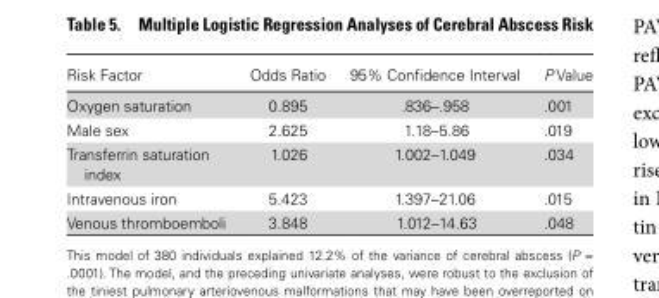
<table><thead><tr><td>Risk Factor</td><td>Odds Ratio</td><td>95% Confidence Interval</td><td>P Value</td></tr></thead><tbody><tr><td>Oxygen saturation</td><td>0.895</td><td>.836–.958</td><td>.001</td></tr><tr><td>Male sex</td><td>2.625</td><td>1.18–5.86</td><td>.019</td></tr><tr><td>Transferrin saturation index</td><td>1.026</td><td>1.002–1.049</td><td>.034</td></tr><tr><td>Intravenous iron</td><td>5.423</td><td>1.397–21.06</td><td>.015</td></tr><tr><td>Venous thromboemboli</td><td>3.848</td><td>1.012–14.63</td><td>.048</td></tr></tbody></table>